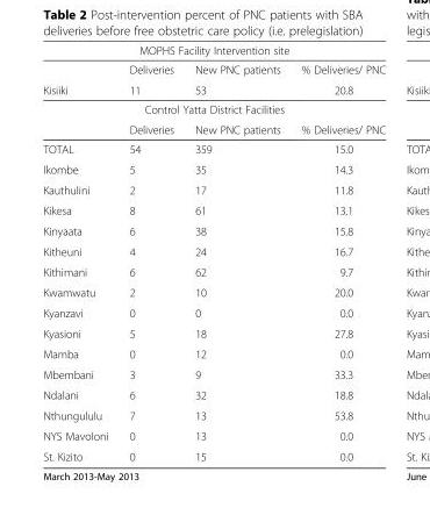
<table><thead><tr><td colspan="4">MOPHS Facility Intervention site</td></tr><tr><td></td><td>Deliveries</td><td>New PNC patients</td><td>% Deliveries/ PNC</td></tr></thead><tbody><tr><td>Kisiiki</td><td>11</td><td>53</td><td>20.8</td></tr><tr><td colspan="4">Control Yatta District Facilities</td></tr><tr><td></td><td>Deliveries</td><td>New PNC patients</td><td>% Deliveries/ PNC</td></tr><tr><td>TOTAL</td><td>54</td><td>359</td><td>15.0</td></tr><tr><td>Ikombe</td><td>5</td><td>35</td><td>14.3</td></tr><tr><td>Kauthulini</td><td>2</td><td>17</td><td>11.8</td></tr><tr><td>Kikesa</td><td>8</td><td>61</td><td>13.1</td></tr><tr><td>Kinyaata</td><td>6</td><td>38</td><td>15.8</td></tr><tr><td>Kitheuni</td><td>4</td><td>24</td><td>16.7</td></tr><tr><td>Kithimani</td><td>6</td><td>62</td><td>9.7</td></tr><tr><td>Kwamwatu</td><td>2</td><td>10</td><td>20.0</td></tr><tr><td>Kyanzavi</td><td>0</td><td>0</td><td>0.0</td></tr><tr><td>Kyasioni</td><td>5</td><td>18</td><td>27.8</td></tr><tr><td>Mamba</td><td>0</td><td>12</td><td>0.0</td></tr><tr><td>Mbembani</td><td>3</td><td>9</td><td>33.3</td></tr><tr><td>Ndalani</td><td>6</td><td>32</td><td>18.8</td></tr><tr><td>Nthungululu</td><td>7</td><td>13</td><td>53.8</td></tr><tr><td>NYS Mavoloni</td><td>0</td><td>13</td><td>0.0</td></tr><tr><td>St. Kizito</td><td>0</td><td>15</td><td>0.0</td></tr></tbody></table>